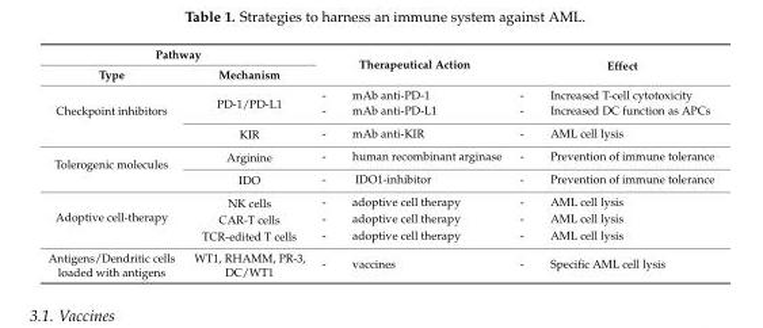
<table><thead><tr><td colspan="2">Pathway</td><td rowspan="2">Therapeutical Action</td><td rowspan="2">Effect</td></tr><tr><td>Type</td><td>Mechanism</td></tr></thead><tbody><tr><td rowspan="2">Checkpoint inhibitors</td><td>PD-1/PD-L1</td><td>- mAb anti-PD-1 - mAb anti-PD-L1</td><td>- Increased T-cell cytotoxicity - Increased DC function as APCs</td></tr><tr><td>KIR</td><td>- mAb anti-KIR</td><td>- AML cell lysis</td></tr><tr><td rowspan="2">Tolerogenic molecules</td><td>Arginine</td><td>- human recombinant arginase</td><td>- Prevention of immune tolerance</td></tr><tr><td>IDO</td><td>- IDO1-inhibitor</td><td>- Prevention of immune tolerance</td></tr><tr><td rowspan="3">Adoptive cell-therapy</td><td>NK cells</td><td>- adoptive cell therapy</td><td>- AML cell lysis</td></tr><tr><td>CAR-T cells</td><td>- adoptive cell therapy</td><td>- AML cell lysis</td></tr><tr><td>TCR-edited T cells</td><td>- adoptive cell therapy</td><td>- AML cell lysis</td></tr><tr><td>Antigens/Dendritic cells loaded with antigens</td><td>WT1, RHAMM, PR-3, DC/WT1</td><td>- vaccines</td><td>- Specific AML cell lysis</td></tr></tbody></table>